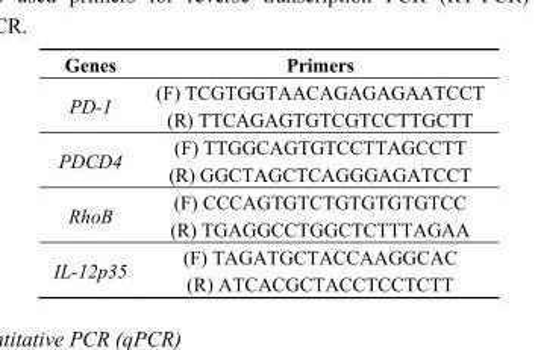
<table><thead><tr><td>Genes</td><td>Primers</td></tr></thead><tbody><tr><td>PD-1</td><td>(F) TCGTGGTAACAGAGAGAATCCT (R) TTCAGAGTGTCGTCCTTGCTT</td></tr><tr><td>PDCD4</td><td>(F) TTGGCAGTGTCCTTAGCCTT (R) GGCTAGCTCAGGGAGATCCT</td></tr><tr><td>RhoB</td><td>(F) CCCAGTGTCTGTGTGTGTCC (R) TGAGGCCTGGCTCTTTAGAA</td></tr><tr><td>IL-12p35</td><td>(F) TAGATGCTACCAAGGCAC (R) ATCACGCTACCTCCTCTT</td></tr></tbody></table>